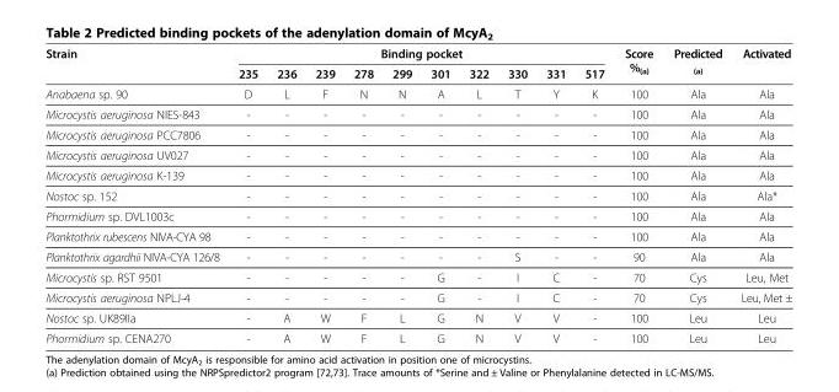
<table><thead><tr><td rowspan="2">Strain</td><td colspan="10">Binding pocket</td><td rowspan="2">Score %<sub>(a)</sub></td><td rowspan="2">Predicted <sub>(a)</sub></td><td rowspan="2">Activated</td></tr><tr><td>235</td><td>236</td><td>239</td><td>278</td><td>299</td><td>301</td><td>322</td><td>330</td><td>331</td><td>517</td></tr></thead><tbody><tr><td>Anabaena sp. 90</td><td>D</td><td>L</td><td>F</td><td>N</td><td>N</td><td>A</td><td>L</td><td>T</td><td>Y</td><td>K</td><td>100</td><td>Ala</td><td>Ala</td></tr><tr><td>Microcystis aeruginosa NIES-843</td><td>-</td><td>-</td><td>-</td><td>-</td><td>-</td><td>-</td><td>-</td><td>-</td><td>-</td><td>-</td><td>100</td><td>Ala</td><td>Ala</td></tr><tr><td>Microcystis aeruginosa PCC7806</td><td>-</td><td>-</td><td>-</td><td>-</td><td>-</td><td>-</td><td>-</td><td>-</td><td>-</td><td>-</td><td>100</td><td>Ala</td><td>Ala</td></tr><tr><td>Microcystis aeruginosa UV027</td><td>-</td><td>-</td><td>-</td><td>-</td><td>-</td><td>-</td><td>-</td><td>-</td><td>-</td><td>-</td><td>100</td><td>Ala</td><td>Ala</td></tr><tr><td>Microcystis aeruginosa K-139</td><td>-</td><td>-</td><td>-</td><td>-</td><td>-</td><td>-</td><td>-</td><td>-</td><td>-</td><td>-</td><td>100</td><td>Ala</td><td>Ala</td></tr><tr><td>Nostoc sp. 152</td><td>-</td><td>-</td><td>-</td><td>-</td><td>-</td><td>-</td><td>-</td><td>-</td><td>-</td><td>-</td><td>100</td><td>Ala</td><td>Ala*</td></tr><tr><td>Phormidium sp. DVL1003c</td><td>-</td><td>-</td><td>-</td><td>-</td><td>-</td><td>-</td><td>-</td><td>-</td><td>-</td><td>-</td><td>100</td><td>Ala</td><td>Ala</td></tr><tr><td>Planktothrix rubescens NIVA-CYA 98</td><td>-</td><td>-</td><td>-</td><td>-</td><td>-</td><td>-</td><td>-</td><td>-</td><td>-</td><td>-</td><td>100</td><td>Ala</td><td>Ala</td></tr><tr><td>Planktothrix agardhii NIVA-CYA 126/8</td><td>-</td><td>-</td><td>-</td><td>-</td><td>-</td><td>-</td><td>-</td><td>S</td><td>-</td><td>-</td><td>90</td><td>Ala</td><td>Ala</td></tr><tr><td>Microcystis sp. RST 9501</td><td>-</td><td>-</td><td>-</td><td>-</td><td>-</td><td>G</td><td>-</td><td>I</td><td>C</td><td>-</td><td>70</td><td>Cys</td><td>Leu, Met</td></tr><tr><td>Microcystis aeruginosa NPLJ-4</td><td>-</td><td>-</td><td>-</td><td>-</td><td>-</td><td>G</td><td>-</td><td>I</td><td>C</td><td>-</td><td>70</td><td>Cys</td><td>Leu, Met ±</td></tr><tr><td>Nostoc sp. UK89IIa</td><td>-</td><td>A</td><td>W</td><td>F</td><td>L</td><td>G</td><td>N</td><td>V</td><td>V</td><td>-</td><td>100</td><td>Leu</td><td>Leu</td></tr><tr><td>Phormidium sp. CENA270</td><td>-</td><td>A</td><td>W</td><td>F</td><td>L</td><td>G</td><td>N</td><td>V</td><td>V</td><td>-</td><td>100</td><td>Leu</td><td>Leu</td></tr></tbody></table>